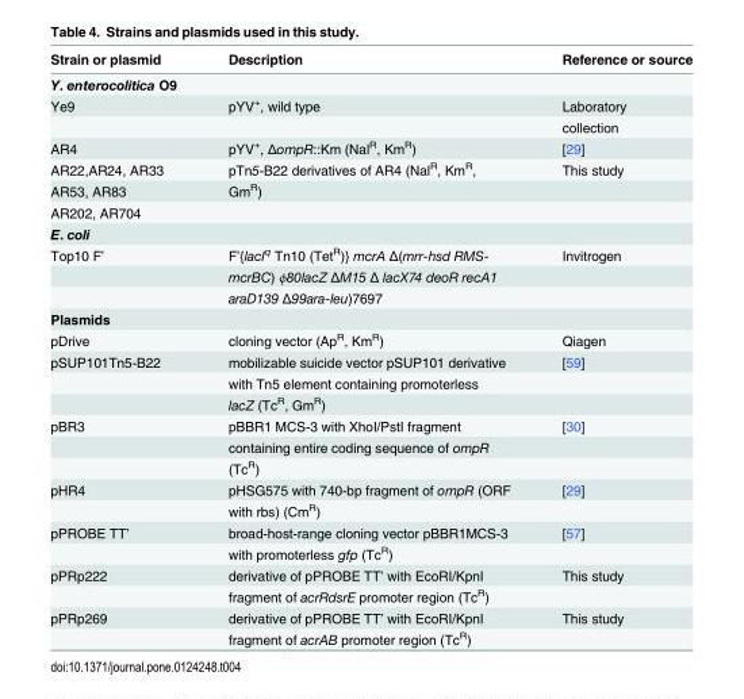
<table><thead><tr><td>Strain or plasmid</td><td>Description</td><td>Reference or source</td></tr></thead><tbody><tr><td colspan="3">Y. enterocolitica O9</td></tr><tr><td rowspan="2">Ye9</td><td>pYV<sup>+</sup>, wild type</td><td>Laboratory</td></tr><tr><td></td><td>collection</td></tr><tr><td>AR4</td><td>pYV<sup>+</sup>, ΔompR::Km (Nal<sup>R</sup>, Km<sup>R</sup>)</td><td>[29]</td></tr><tr><td>AR22,AR24, AR33</td><td>pTn5-B22 derivatives of AR4 (Nal<sup>R</sup>, Km<sup>R</sup>,</td><td>This study</td></tr><tr><td>AR53, AR83</td><td>Gm<sup>R</sup>)</td><td></td></tr><tr><td colspan="3">AR202, AR704</td></tr><tr><td colspan="3">E. coli</td></tr><tr><td rowspan="3">Top10 F’</td><td>F’{lacI<sup>q</sup> Tn10 (Tet<sup>R</sup>)} mcrA Δ(mrr-hsd RMS-</td><td>Invitrogen</td></tr><tr><td>mcrBC) ϕ80lacZ ΔM15 Δ lacX74 deoR recA1</td><td></td></tr><tr><td>araD139 Δ99ara-leu)7697</td><td></td></tr><tr><td colspan="3">Plasmids</td></tr><tr><td>pDrive</td><td>cloning vector (Ap<sup>R</sup>, Km<sup>R</sup>)</td><td>Qiagen</td></tr><tr><td rowspan="3">pSUP101Tn5-B22</td><td>mobilizable suicide vector pSUP101 derivative</td><td>[59]</td></tr><tr><td>with Tn5 element containing promoterless</td><td></td></tr><tr><td>lacZ (Tc<sup>R</sup>, Gm<sup>R</sup>)</td><td></td></tr><tr><td rowspan="3">pBR3</td><td>pBBR1 MCS-3 with XhoI/PstI fragment</td><td>[30]</td></tr><tr><td>containing entire coding sequence of ompR</td><td></td></tr><tr><td>(Tc<sup>R</sup>)</td><td></td></tr><tr><td rowspan="2">pHR4</td><td>pHSG575 with 740-bp fragment of ompR (ORF</td><td>[29]</td></tr><tr><td>with rbs) (Cm<sup>R</sup>)</td><td></td></tr><tr><td rowspan="2">pPROBE TT’</td><td>broad-host-range cloning vector pBBR1MCS-3</td><td>[57]</td></tr><tr><td>with promoterless gfp (Tc<sup>R</sup>)</td><td></td></tr><tr><td rowspan="2">pPRp222</td><td>derivative of pPROBE TT’ with EcoRI/KpnI</td><td>This study</td></tr><tr><td>fragment of acrRdsrE promoter region (Tc<sup>R</sup>)</td><td></td></tr><tr><td rowspan="2">pPRp269</td><td>derivative of pPROBE TT’ with EcoRI/KpnI</td><td>This study</td></tr><tr><td>fragment of acrAB promoter region (Tc<sup>R</sup>)</td><td></td></tr></tbody></table>